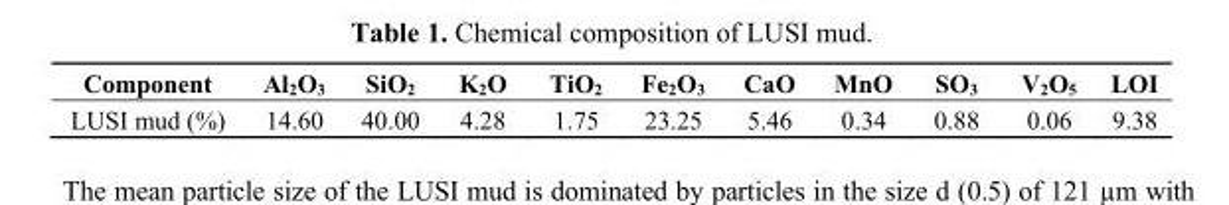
<table><thead><tr><td>Component</td><td>Al<sub>2</sub>O<sub>3</sub></td><td>SiO<sub>2</sub></td><td>K<sub>2</sub>O</td><td>TiO<sub>2</sub></td><td>Fe<sub>2</sub>O<sub>3</sub></td><td>CaO</td><td>MnO</td><td>SO<sub>3</sub></td><td>V<sub>2</sub>O<sub>5</sub></td><td>LOI</td></tr></thead><tbody><tr><td>LUSI mud (%)</td><td>14.60</td><td>40.00</td><td>4.28</td><td>1.75</td><td>23.25</td><td>5.46</td><td>0.34</td><td>0.88</td><td>0.06</td><td>9.38</td></tr></tbody></table>